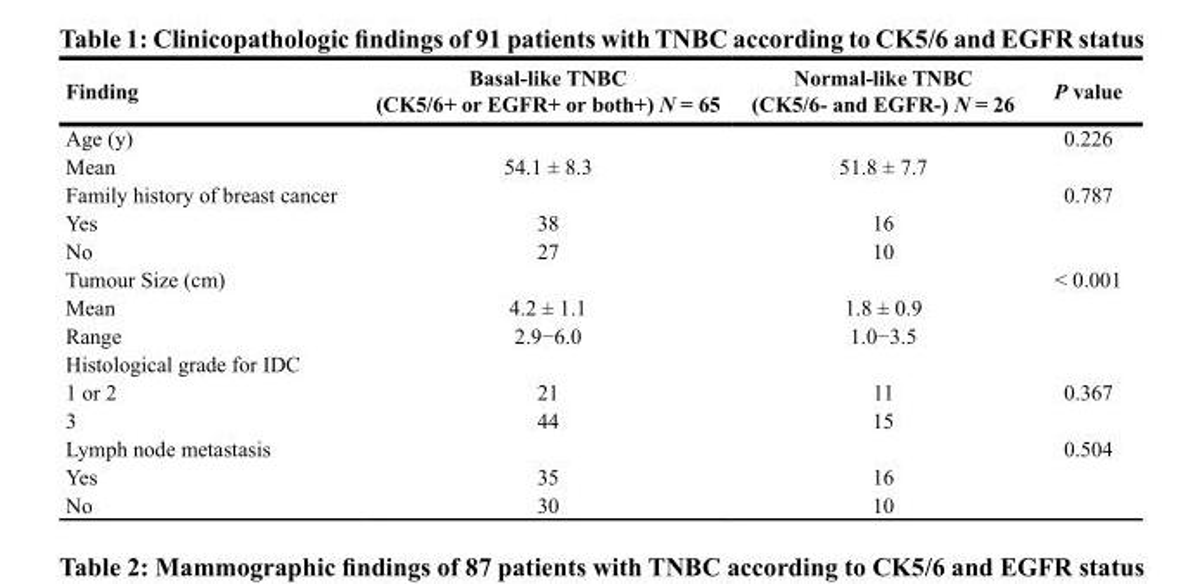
<table><thead><tr><td>Finding</td><td>Basal-like TNBC (CK5/6+ or EGFR+ or both+) N = 65</td><td>Normal-like TNBC (CK5/6- and EGFR-) N = 26</td><td>P value</td></tr></thead><tbody><tr><td>Age (y)</td><td></td><td></td><td>0.226</td></tr><tr><td>Mean</td><td>54.1 ± 8.3</td><td>51.8 ± 7.7</td><td></td></tr><tr><td>Family history of breast cancer</td><td></td><td></td><td>0.787</td></tr><tr><td>Yes</td><td>38</td><td>16</td><td></td></tr><tr><td>No</td><td>27</td><td>10</td><td></td></tr><tr><td>Tumour Size (cm)</td><td></td><td></td><td>&lt; 0.001</td></tr><tr><td>Mean</td><td>4.2 ± 1.1</td><td>1.8 ± 0.9</td><td></td></tr><tr><td>Range</td><td>2.9−6.0</td><td>1.0−3.5</td><td></td></tr><tr><td colspan="4">Histological grade for IDC</td></tr><tr><td>1 or 2</td><td>21</td><td>11</td><td>0.367</td></tr><tr><td>3</td><td>44</td><td>15</td><td></td></tr><tr><td>Lymph node metastasis</td><td></td><td></td><td>0.504</td></tr><tr><td>Yes</td><td>35</td><td>16</td><td></td></tr><tr><td>No</td><td>30</td><td>10</td><td></td></tr></tbody></table>